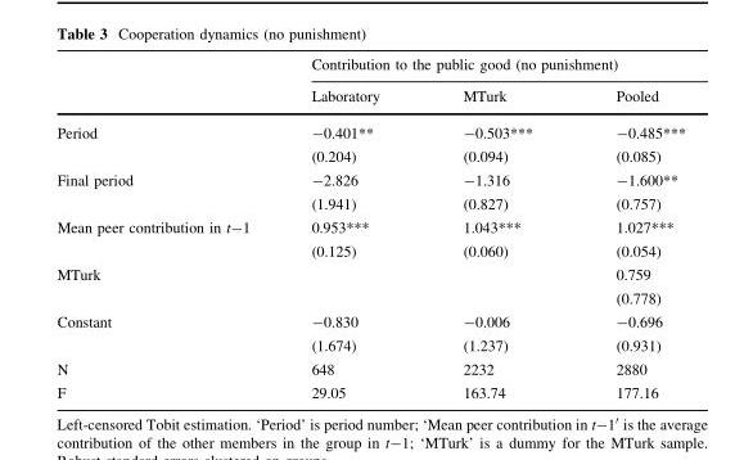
<table><thead><tr><td rowspan="2"></td><td colspan="3">Contribution to the public good (no punishment)</td></tr><tr><td>Laboratory</td><td>MTurk</td><td>Pooled</td></tr></thead><tbody><tr><td rowspan="2">Period</td><td>-0.401**</td><td>-0.503***</td><td>-0.485***</td></tr><tr><td>(0.204)</td><td>(0.094)</td><td>(0.085)</td></tr><tr><td rowspan="2">Final period</td><td>-2.826</td><td>-1.316</td><td>-1.600**</td></tr><tr><td>(1.941)</td><td>(0.827)</td><td>(0.757)</td></tr><tr><td rowspan="2">Mean peer contribution in t-1</td><td>0.953***</td><td>1.043***</td><td>1.027***</td></tr><tr><td>(0.125)</td><td>(0.060)</td><td>(0.054)</td></tr><tr><td rowspan="2">MTurk</td><td></td><td></td><td>0.759</td></tr><tr><td></td><td></td><td>(0.778)</td></tr><tr><td rowspan="2">Constant</td><td>-0.830</td><td>-0.006</td><td>-0.696</td></tr><tr><td>(1.674)</td><td>(1.237)</td><td>(0.931)</td></tr><tr><td>N</td><td>648</td><td>2232</td><td>2880</td></tr><tr><td>F</td><td>29.05</td><td>163.74</td><td>177.16</td></tr></tbody></table>